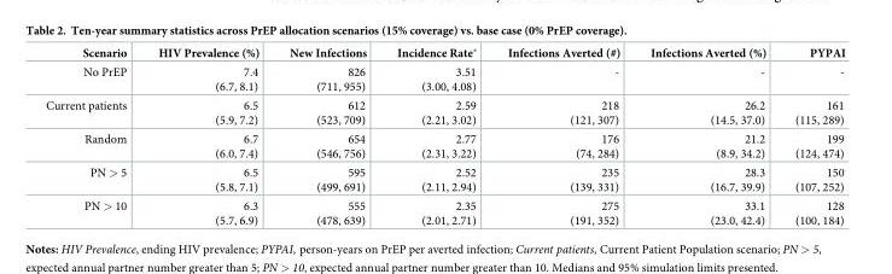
<table><thead><tr><td>Scenario</td><td>HIV Prevalence (%)</td><td>New Infections</td><td>Incidence Rate*</td><td>Infections Averted (#)</td><td>Infections Averted (%)</td><td>PYPAI</td></tr></thead><tbody><tr><td>No PrEP</td><td>7.4 (6.7, 8.1)</td><td>826 (711, 955)</td><td>3.51 (3.00, 4.08)</td><td>-</td><td>-</td><td>-</td></tr><tr><td>Current patients</td><td>6.5 (5.9, 7.2)</td><td>612 (523, 709)</td><td>2.59 (2.21, 3.02)</td><td>218 (121, 307)</td><td>26.2 (14.5, 37.0)</td><td>161 (115, 289)</td></tr><tr><td>Random</td><td>6.7 (6.0, 7.4)</td><td>654 (546, 756)</td><td>2.77 (2.31, 3.22)</td><td>176 (74, 284)</td><td>21.2 (8.9, 34.2)</td><td>199 (124, 474)</td></tr><tr><td>PN &gt; 5</td><td>6.5 (5.8, 7.1)</td><td>595 (499, 691)</td><td>2.52 (2.11, 2.94)</td><td>235 (139, 331)</td><td>28.3 (16.7, 39.9)</td><td>150 (107, 252)</td></tr><tr><td>PN &gt; 10</td><td>6.3 (5.7, 6.9)</td><td>555 (478, 639)</td><td>2.35 (2.01, 2.71)</td><td>275 (191, 352)</td><td>33.1 (23.0, 42.4)</td><td>128 (100, 184)</td></tr></tbody></table>